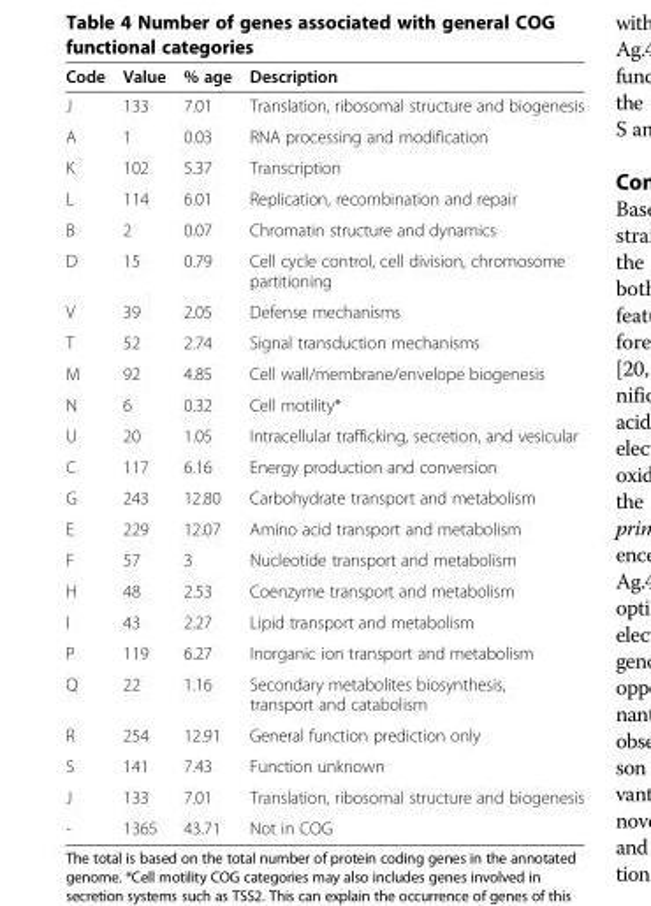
<table><thead><tr><td>Code</td><td>Value</td><td>% age</td><td>Description</td></tr></thead><tbody><tr><td>J</td><td>133</td><td>7.01</td><td>Translation, ribosomal structure and biogenesis</td></tr><tr><td>A</td><td>1</td><td>0.03</td><td>RNA processing and modification</td></tr><tr><td>K</td><td>102</td><td>5.37</td><td>Transcription</td></tr><tr><td>L</td><td>114</td><td>6.01</td><td>Replication, recombination and repair</td></tr><tr><td>B</td><td>2</td><td>0.07</td><td>Chromatin structure and dynamics</td></tr><tr><td>D</td><td>15</td><td>0.79</td><td>Cell cycle control, cell division, chromosome partitioning</td></tr><tr><td>V</td><td>39</td><td>2.05</td><td>Defense mechanisms</td></tr><tr><td>T</td><td>52</td><td>2.74</td><td>Signal transduction mechanisms</td></tr><tr><td>M</td><td>92</td><td>4.85</td><td>Cell wall/membrane/envelope biogenesis</td></tr><tr><td>N</td><td>6</td><td>0.32</td><td>Cell motility*</td></tr><tr><td>U</td><td>20</td><td>1.05</td><td>Intracellular trafficking, secretion, and vesicular</td></tr><tr><td>C</td><td>117</td><td>6.16</td><td>Energy production and conversion</td></tr><tr><td>G</td><td>243</td><td>12.80</td><td>Carbohydrate transport and metabolism</td></tr><tr><td>E</td><td>229</td><td>12.07</td><td>Amino acid transport and metabolism</td></tr><tr><td>F</td><td>57</td><td>3</td><td>Nucleotide transport and metabolism</td></tr><tr><td>H</td><td>48</td><td>2.53</td><td>Coenzyme transport and metabolism</td></tr><tr><td>I</td><td>43</td><td>2.27</td><td>Lipid transport and metabolism</td></tr><tr><td>P</td><td>119</td><td>6.27</td><td>Inorganic ion transport and metabolism</td></tr><tr><td>Q</td><td>22</td><td>1.16</td><td>Secondary metabolites biosynthesis, transport and catabolism</td></tr><tr><td>R</td><td>254</td><td>12.91</td><td>General function prediction only</td></tr><tr><td>S</td><td>141</td><td>7.43</td><td>Function unknown</td></tr><tr><td>J</td><td>133</td><td>7.01</td><td>Translation, ribosomal structure and biogenesis</td></tr><tr><td>-</td><td>1365</td><td>43.71</td><td>Not in COG</td></tr></tbody></table>